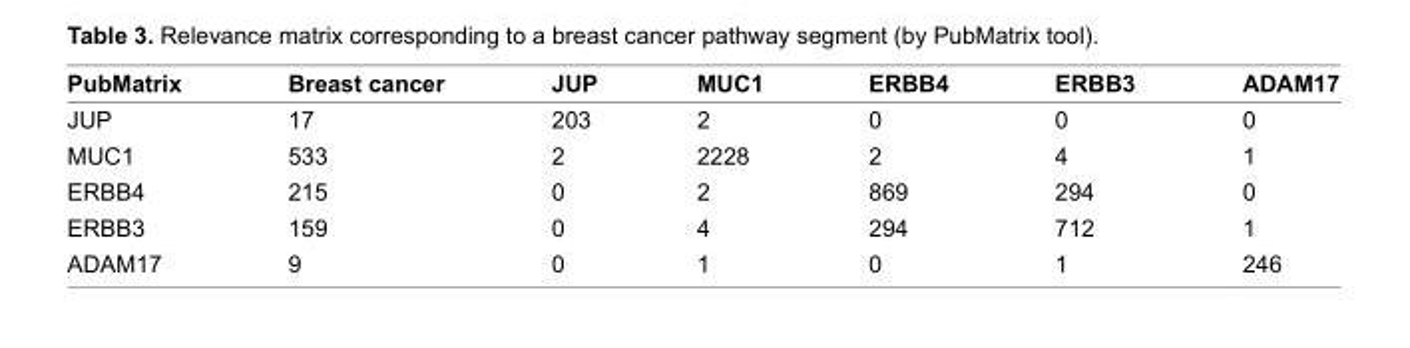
<table><thead><tr><td>PubMatrix</td><td>Breast cancer</td><td>JUp</td><td>MUC1</td><td>ERBB4</td><td>ERBB3</td><td>ADAM17</td></tr></thead><tbody><tr><td>JUP</td><td>17</td><td>203</td><td>2</td><td>0</td><td>0</td><td>0</td></tr><tr><td>MUC1</td><td>533</td><td>2</td><td>2228</td><td>2</td><td>4</td><td>1</td></tr><tr><td>erBB4</td><td>215</td><td>0</td><td>2</td><td>869</td><td>294</td><td>0</td></tr><tr><td>erBB3</td><td>159</td><td>0</td><td>4</td><td>294</td><td>712</td><td>1</td></tr><tr><td>ADAM17</td><td>9</td><td>0</td><td>1</td><td>0</td><td>1</td><td>246</td></tr></tbody></table>